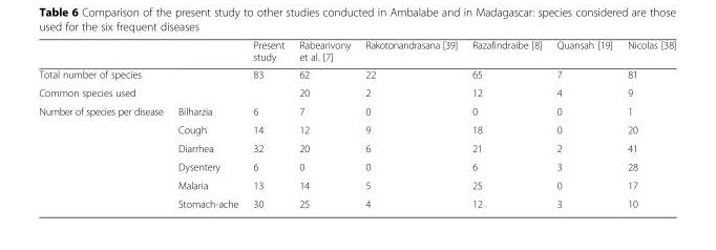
<table><thead><tr><td></td><td></td><td>Present study</td><td>Rabearivony et al. [7]</td><td>Rakotonandrasana [39]</td><td>Razafindraibe [8]</td><td>Quansah [19]</td><td>Nicolas [38]</td></tr></thead><tbody><tr><td>Total number of species</td><td></td><td>83</td><td>62</td><td>22</td><td>65</td><td>7</td><td>81</td></tr><tr><td>Common species used</td><td></td><td></td><td>20</td><td>2</td><td>12</td><td>4</td><td>9</td></tr><tr><td rowspan="6">Number of species per disease</td><td>Bilharzia</td><td>6</td><td>7</td><td>0</td><td>0</td><td>0</td><td>1</td></tr><tr><td>Cough</td><td>14</td><td>12</td><td>9</td><td>18</td><td>0</td><td>20</td></tr><tr><td>Diarrhea</td><td>32</td><td>20</td><td>6</td><td>21</td><td>2</td><td>41</td></tr><tr><td>Dysentery</td><td>6</td><td>0</td><td>0</td><td>6</td><td>3</td><td>28</td></tr><tr><td>Malaria</td><td>13</td><td>14</td><td>5</td><td>25</td><td>0</td><td>17</td></tr><tr><td>Stomach-ache</td><td>30</td><td>25</td><td>4</td><td>12</td><td>3</td><td>10</td></tr></tbody></table>